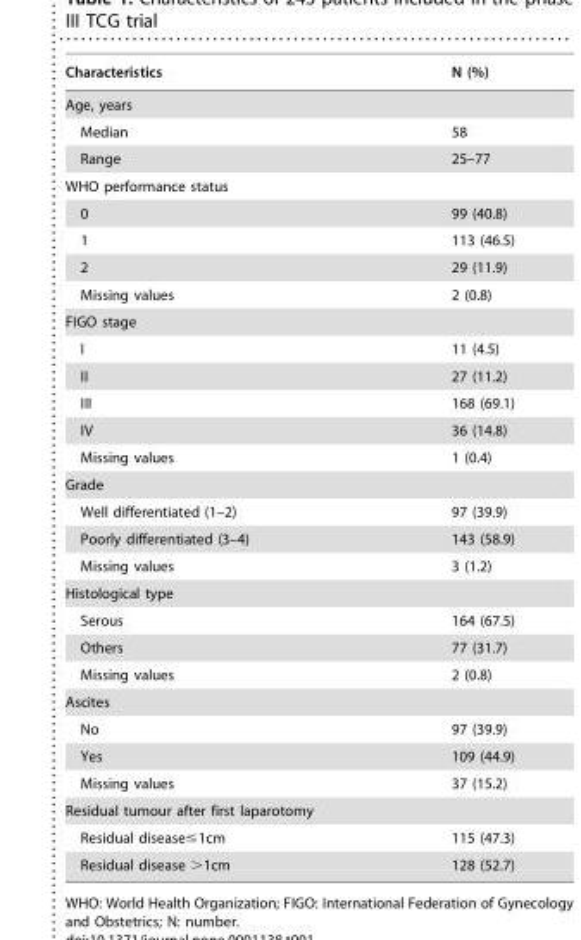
<table><thead><tr><td>Characteristics</td><td>N (%)</td></tr></thead><tbody><tr><td colspan="2">Age, years</td></tr><tr><td>Median</td><td>58</td></tr><tr><td>Range</td><td>25–77</td></tr><tr><td colspan="2">WHO performance status</td></tr><tr><td>0</td><td>99 (40.8)</td></tr><tr><td>1</td><td>113 (46.5)</td></tr><tr><td>2</td><td>29 (11.9)</td></tr><tr><td>Missing values</td><td>2 (0.8)</td></tr><tr><td colspan="2">FIGO stage</td></tr><tr><td>I</td><td>11 (4.5)</td></tr><tr><td>II</td><td>27 (11.2)</td></tr><tr><td>III</td><td>168 (69.1)</td></tr><tr><td>IV</td><td>36 (14.8)</td></tr><tr><td>Missing values</td><td>1 (0.4)</td></tr><tr><td colspan="2">Grade</td></tr><tr><td>Well differentiated (1–2)</td><td>97 (39.9)</td></tr><tr><td>Poorly differentiated (3–4)</td><td>143 (58.9)</td></tr><tr><td>Missing values</td><td>3 (1.2)</td></tr><tr><td colspan="2">Histological type</td></tr><tr><td>Serous</td><td>164 (67.5)</td></tr><tr><td>Others</td><td>77 (31.7)</td></tr><tr><td>Missing values</td><td>2 (0.8)</td></tr><tr><td colspan="2">Ascites</td></tr><tr><td>No</td><td>97 (39.9)</td></tr><tr><td>Yes</td><td>109 (44.9)</td></tr><tr><td>Missing values</td><td>37 (15.2)</td></tr><tr><td colspan="2">Residual tumour after first laparotomy</td></tr><tr><td>Residual disease≤1cm</td><td>115 (47.3)</td></tr><tr><td>Residual disease &gt;1cm</td><td>128 (52.7)</td></tr></tbody></table>